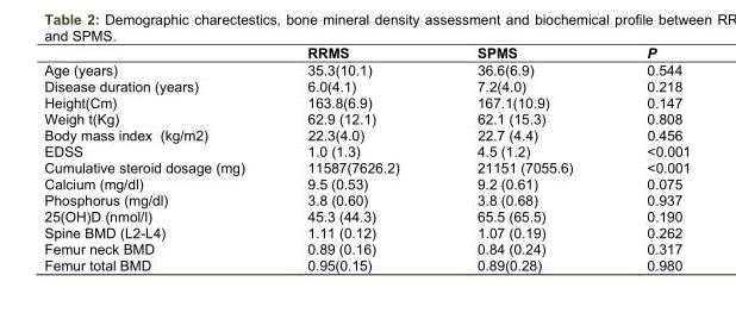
<table><thead><tr><td></td><td>RRMS</td><td>SPMS</td><td>P</td></tr></thead><tbody><tr><td>Age (years)</td><td>35.3(10.1)</td><td>36.6(6.9)</td><td>0.544</td></tr><tr><td>Disease duration (years)</td><td>6.0(4.1)</td><td>7.2(4.0)</td><td>0.218</td></tr><tr><td>Height(Cm)</td><td>163.8(6.9)</td><td>167.1(10.9)</td><td>0.147</td></tr><tr><td>Weigh t(Kg)</td><td>62.9 (12.1)</td><td>62.1 (15.3)</td><td>0.808</td></tr><tr><td>Body mass index (kg/m<sup>2</sup>)</td><td>22.3(4.0)</td><td>22.7 (4.4)</td><td>0.456</td></tr><tr><td>EDSS</td><td>1.0 (1.3)</td><td>4.5 (1.2)</td><td>&lt;0.001</td></tr><tr><td>Cumulative steroid dosage (mg)</td><td>11587(7626.2)</td><td>21151 (7055.6)</td><td>&lt;0.001</td></tr><tr><td>Calcium (mg/dl)</td><td>9.5 (0.53)</td><td>9.2 (0.61)</td><td>0.075</td></tr><tr><td>Phosphorus (mg/dl)</td><td>3.8 (0.60)</td><td>3.8 (0.68)</td><td>0.937</td></tr><tr><td>25(OH)D (nmol/l)</td><td>45.3 (44.3)</td><td>65.5 (65.5)</td><td>0.190</td></tr><tr><td>Spine BMD (L2-L4)</td><td>1.11 (0.12)</td><td>1.07 (0.19)</td><td>0.262</td></tr><tr><td>Femur neck BMD</td><td>0.89 (0.16)</td><td>0.84 (0.24)</td><td>0.317</td></tr><tr><td>Femur total BMD</td><td>0.95(0.15)</td><td>0.89(0.28)</td><td>0.980</td></tr></tbody></table>